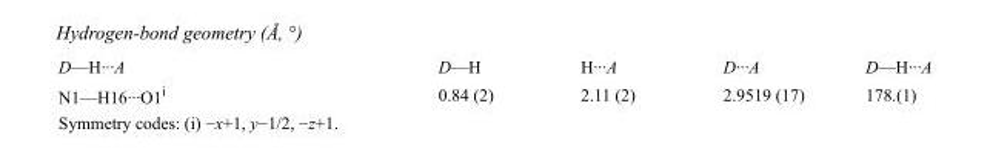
<table><tbody><tr><td>D—H···A</td><td>D—H</td><td>H···A</td><td>D···A</td><td>D—H···A</td></tr><tr><td>N1—H16···O1<sup>i</sup></td><td>0.84 (2)</td><td>2.11 (2)</td><td>2.9519 (17)</td><td>178.(1)</td></tr></tbody></table>